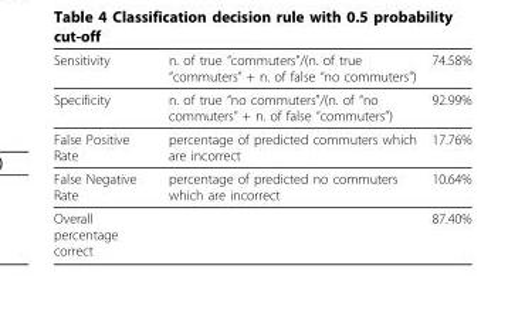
<table><thead><tr><td>Sensitivity</td><td>n. of true “commuters&quot;/(n. of true “commuters” + n. of false “no commuters”)</td><td>74.58%</td></tr></thead><tbody><tr><td>Specificity</td><td>n. of true “no commuters&quot;/(n. of “no commuters” + n. of false “commuters”)</td><td>92.99%</td></tr><tr><td>False Positive Rate</td><td>percentage of predicted commuters which are incorrect</td><td>17.76%</td></tr><tr><td>False Negative Rate</td><td>percentage of predicted no commuters which are incorrect</td><td>10.64%</td></tr><tr><td>Overall percentage correct</td><td></td><td>87.40%</td></tr></tbody></table>